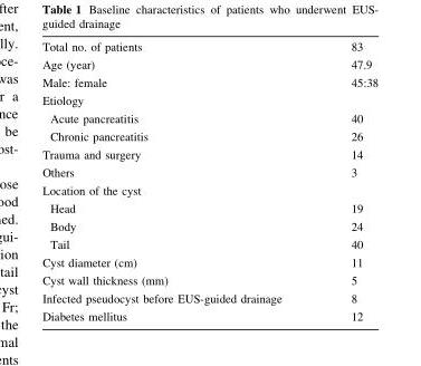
<table><tbody><tr><td>Total no. of patients</td><td>83</td></tr><tr><td>Age (year)</td><td>47.9</td></tr><tr><td>Male: female</td><td>45:38</td></tr><tr><td colspan="2">Etiology</td></tr><tr><td>Acute pancreatitis</td><td>40</td></tr><tr><td>Chronic pancreatitis</td><td>26</td></tr><tr><td>Trauma and surgery</td><td>14</td></tr><tr><td>Others</td><td>3</td></tr><tr><td colspan="2">Location of the cyst</td></tr><tr><td>Head</td><td>19</td></tr><tr><td>Body</td><td>24</td></tr><tr><td>Tail</td><td>40</td></tr><tr><td>Cyst diameter (cm)</td><td>11</td></tr><tr><td>Cyst wall thickness (mm)</td><td>5</td></tr><tr><td>Infected pseudocyst before EUS-guided drainage</td><td>8</td></tr><tr><td>Diabetes mellitus</td><td>12</td></tr></tbody></table>